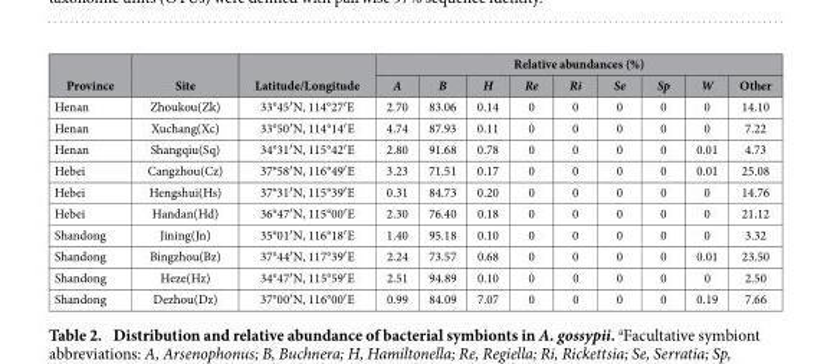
<table><thead><tr><td rowspan="2">Province</td><td rowspan="2">Site</td><td rowspan="2">Latitude/Longitude</td><td colspan="9">Relative abundances (%)</td></tr><tr><td>A</td><td>B</td><td>H</td><td>Re</td><td>Ri</td><td>Se</td><td>Sp</td><td>W</td><td>Other</td></tr></thead><tbody><tr><td>Henan</td><td>Zhoukou(Zk)</td><td>33°45′ N, 114°27′ E</td><td>2.70</td><td>83.06</td><td>0.14</td><td>0</td><td>0</td><td>0</td><td>0</td><td>0</td><td>14.10</td></tr><tr><td>Henan</td><td>Xuchang(Xc)</td><td>33°50′ N, 114°14′ E</td><td>4.74</td><td>87.93</td><td>0.11</td><td>0</td><td>0</td><td>0</td><td>0</td><td>0</td><td>7.22</td></tr><tr><td>Henan</td><td>Shangqiu(Sq)</td><td>34°31′ N, 115°42′ E</td><td>2.80</td><td>91.68</td><td>0.78</td><td>0</td><td>0</td><td>0</td><td>0</td><td>0.01</td><td>4.73</td></tr><tr><td>Hebei</td><td>Cangzhou(Cz)</td><td>37°58′ N, 116°49′ E</td><td>3.23</td><td>71.51</td><td>0.17</td><td>0</td><td>0</td><td>0</td><td>0</td><td>0.01</td><td>25.08</td></tr><tr><td>Hebei</td><td>Hengshui(Hs)</td><td>37°31′ N, 115°39′ E</td><td>0.31</td><td>84.73</td><td>0.20</td><td>0</td><td>0</td><td>0</td><td>0</td><td>0</td><td>14.76</td></tr><tr><td>Hebei</td><td>Handan(Hd)</td><td>36°47′ N, 115°00′ E</td><td>2.30</td><td>76.40</td><td>0.18</td><td>0</td><td>0</td><td>0</td><td>0</td><td>0</td><td>21.12</td></tr><tr><td>Shandong</td><td>Jining(Jn)</td><td>35°01′ N, 116°18′ E</td><td>1.40</td><td>95.18</td><td>0.10</td><td>0</td><td>0</td><td>0</td><td>0</td><td>0</td><td>3.32</td></tr><tr><td>Shandong</td><td>Bingzhou(Bz)</td><td>37°44′ N, 117°39′ E</td><td>2.24</td><td>73.57</td><td>0.68</td><td>0</td><td>0</td><td>0</td><td>0</td><td>0.01</td><td>23.50</td></tr><tr><td>Shandong</td><td>Heze(Hz)</td><td>34°47′ N, 115°59′ E</td><td>2.51</td><td>94.89</td><td>0.10</td><td>0</td><td>0</td><td>0</td><td>0</td><td>0</td><td>2.50</td></tr><tr><td>Shandong</td><td>Dezhou(Dz)</td><td>37°00′ N, 116°00′ E</td><td>0.99</td><td>84.09</td><td>7.07</td><td>0</td><td>0</td><td>0</td><td>0</td><td>0.19</td><td>7.66</td></tr></tbody></table>